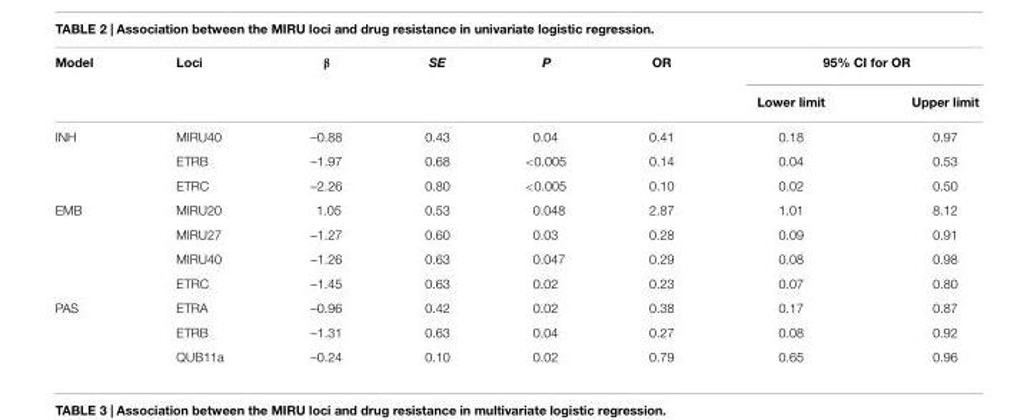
<table><thead><tr><td rowspan="2">Model</td><td rowspan="2">Loci</td><td rowspan="2">β</td><td rowspan="2">SE</td><td rowspan="2">P</td><td rowspan="2">OR</td><td colspan="2">95% CI for OR</td></tr><tr><td>Lower limit</td><td>Upper limit</td></tr></thead><tbody><tr><td rowspan="3">INH</td><td>MIRU40</td><td>–0.88</td><td>0.43</td><td>0.04</td><td>0.41</td><td>0.18</td><td>0.97</td></tr><tr><td>ETRB</td><td>–1.97</td><td>0.68</td><td>&lt;0.005</td><td>0.14</td><td>0.04</td><td>0.53</td></tr><tr><td>ETRC</td><td>–2.26</td><td>0.80</td><td>&lt;0.005</td><td>0.10</td><td>0.02</td><td>0.50</td></tr><tr><td rowspan="4">EMB</td><td>MIRU20</td><td>1.05</td><td>0.53</td><td>0.048</td><td>2.87</td><td>1.01</td><td>8.12</td></tr><tr><td>MIRU27</td><td>–1.27</td><td>0.60</td><td>0.03</td><td>0.28</td><td>0.09</td><td>0.91</td></tr><tr><td>MIRU40</td><td>–1.26</td><td>0.63</td><td>0.047</td><td>0.29</td><td>0.08</td><td>0.98</td></tr><tr><td>ETRC</td><td>–1.45</td><td>0.63</td><td>0.02</td><td>0.23</td><td>0.07</td><td>0.80</td></tr><tr><td rowspan="3">PAS</td><td>ETRA</td><td>–0.96</td><td>0.42</td><td>0.02</td><td>0.38</td><td>0.17</td><td>0.87</td></tr><tr><td>ETRB</td><td>–1.31</td><td>0.63</td><td>0.04</td><td>0.27</td><td>0.08</td><td>0.92</td></tr><tr><td>QUB11a</td><td>–0.24</td><td>0.10</td><td>0.02</td><td>0.79</td><td>0.65</td><td>0.96</td></tr></tbody></table>